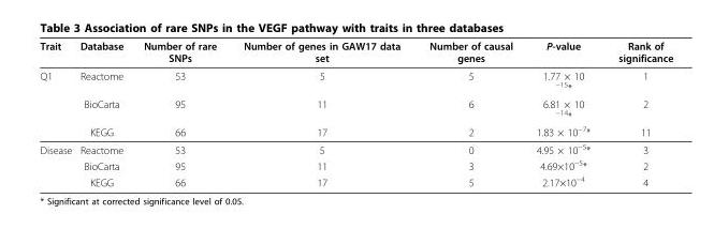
<table><thead><tr><td>Trait</td><td>Database</td><td>Number of rare SNPs</td><td>Number of genes in GAW17 data set</td><td>Number of causal genes</td><td>P-value</td><td>Rank of significance</td></tr></thead><tbody><tr><td rowspan="3">Q1</td><td>Reactome</td><td>53</td><td>5</td><td>5</td><td>1.77 × 10 <sup>−15</sup>*</td><td>1</td></tr><tr><td>BioCarta</td><td>95</td><td>11</td><td>6</td><td>6.81 × 10 <sup>−14</sup>*</td><td>2</td></tr><tr><td>KEGG</td><td>66</td><td>17</td><td>2</td><td>1.83 × 10<sup>−7</sup>*</td><td>11</td></tr><tr><td rowspan="3">Disease</td><td>Reactome</td><td>53</td><td>5</td><td>0</td><td>4.95 × 10<sup>−5</sup>*</td><td>3</td></tr><tr><td>BioCarta</td><td>95</td><td>11</td><td>3</td><td>4.69×10<sup>−5</sup>*</td><td>2</td></tr><tr><td>KEGG</td><td>66</td><td>17</td><td>5</td><td>2.17×10<sup>−4</sup></td><td>4</td></tr></tbody></table>